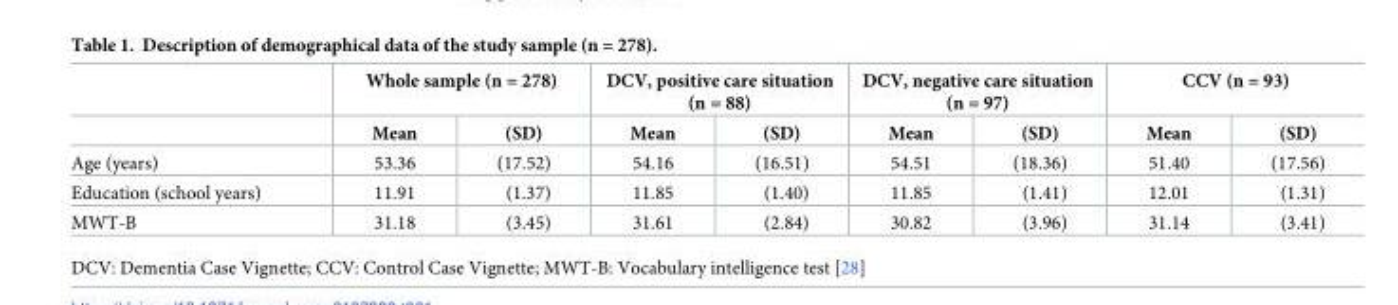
<table><thead><tr><td rowspan="2"></td><td colspan="2">Whole sample (n = 278)</td><td colspan="2">DCV, positive care situation (n = 88)</td><td colspan="2">DCV, negative care situation (n = 97)</td><td colspan="2">CCV (n = 93)</td></tr><tr><td>Mean</td><td>(SD)</td><td>Mean</td><td>(SD)</td><td>Mean</td><td>(SD)</td><td>Mean</td><td>(SD)</td></tr></thead><tbody><tr><td>Age (years)</td><td>53.36</td><td>(17.52)</td><td>54.16</td><td>(16.51)</td><td>54.51</td><td>(18.36)</td><td>51.40</td><td>(17.56)</td></tr><tr><td>Education (school years)</td><td>11.91</td><td>(1.37)</td><td>11.85</td><td>(1.40)</td><td>11.85</td><td>(1.41)</td><td>12.01</td><td>(1.31)</td></tr><tr><td>MWT-B</td><td>31.18</td><td>(3.45)</td><td>31.61</td><td>(2.84)</td><td>30.82</td><td>(3.96)</td><td>31.14</td><td>(3.41)</td></tr></tbody></table>